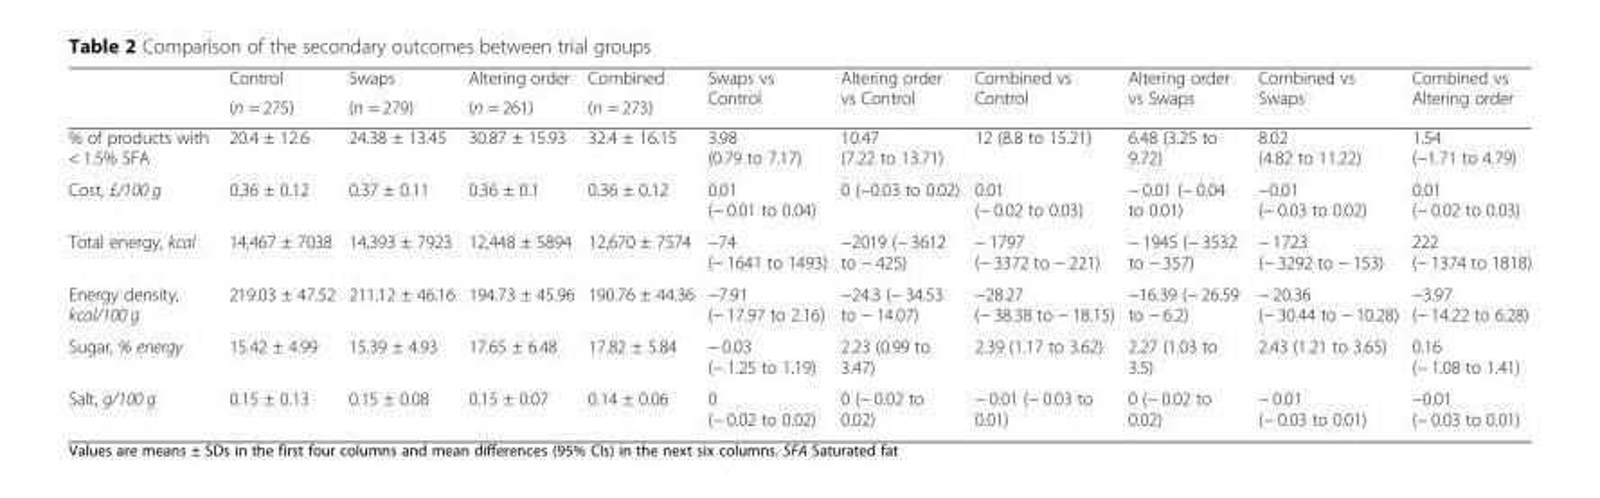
<table><thead><tr><td rowspan="2"></td><td rowspan="2">Control (n = 275)</td><td rowspan="2">Swaps (n = 279)</td><td rowspan="2">Altering order (n = 261)</td><td rowspan="2">Combined (n = 273)</td><td rowspan="2">Swaps vs Control</td><td rowspan="2">Altering order vs Control</td><td rowspan="2">Combined vs Control</td><td rowspan="2">Altering order vs Swaps</td><td rowspan="2">Combined vs Swaps</td><td rowspan="2">Combined vs Altering order</td></tr><tr></tr></thead><tbody><tr><td>% of products with &lt; 1.5% SFA</td><td>20.4 ± 12.6</td><td>24.38 ± 13.45</td><td>30.87 ± 15.93</td><td>32.4 ± 16.15</td><td>3.98 (0.79 to 7.17)</td><td>10.47 (7.22 to 13.71)</td><td>12 (8.8 to 15.21)</td><td>6.48 (3.25 to 9.72)</td><td>8.02 (4.82 to 11.22)</td><td>1.54 (−1.71 to 4.79)</td></tr><tr><td>Cost, £/100 g</td><td>0.36 ± 0.12</td><td>0.37 ± 0.11</td><td>0.36 ± 0.1</td><td>0.36 ± 0.12</td><td>0.01 (− 0.01 to 0.04)</td><td>0 (−0.03 to 0.02)</td><td>0.01 (− 0.02 to 0.03)</td><td>− 0.01 (− 0.04 to 0.01)</td><td>−0.01 (− 0.03 to 0.02)</td><td>0.01 (− 0.02 to 0.03)</td></tr><tr><td>Total energy, kcal</td><td>14,467 ± 7038</td><td>14,393 ± 7923</td><td>12,448 ± 5894</td><td>12,670 ± 7574</td><td>−74 (− 1641 to 1493)</td><td>−2019 (− 3612 to − 425)</td><td>− 1797 (− 3372 to − 221)</td><td>− 1945 (− 3532 to − 357)</td><td>− 1723 (− 3292 to − 153)</td><td>222 (− 1374 to 1818)</td></tr><tr><td>Energy density, kcal/100 g</td><td>219.03 ± 47.52</td><td>211.12 ± 46.16</td><td>194.73 ± 45.96</td><td>190.76 ± 44.36</td><td>−7.91 (− 17.97 to 2.16)</td><td>−24.3 (− 34.53 to − 14.07)</td><td>−28.27 (− 38.38 to − 18.15)</td><td>−16.39 (− 26.59 to − 6.2)</td><td>− 20.36 (− 30.44 to − 10.28)</td><td>−3.97 (− 14.22 to 6.28)</td></tr><tr><td>Sugar, % energy</td><td>15.42 ± 4.99</td><td>15.39 ± 4.93</td><td>17.65 ± 6.48</td><td>17.82 ± 5.84</td><td>− 0.03 (− 1.25 to 1.19)</td><td>2.23 (0.99 to 3.47)</td><td>2.39 (1.17 to 3.62)</td><td>2.27 (1.03 to 3.5)</td><td>2.43 (1.21 to 3.65)</td><td>0.16 (− 1.08 to 1.41)</td></tr><tr><td>Salt, g/100 g</td><td>0.15 ± 0.13</td><td>0.15 ± 0.08</td><td>0.15 ± 0.07</td><td>0.14 ± 0.06</td><td>0 (− 0.02 to 0.02)</td><td>0 (− 0.02 to 0.02)</td><td>− 0.01 (− 0.03 to 0.01)</td><td>0 (− 0.02 to 0.02)</td><td>− 0.01 (− 0.03 to 0.01)</td><td>−0.01 (− 0.03 to 0.01)</td></tr></tbody></table>